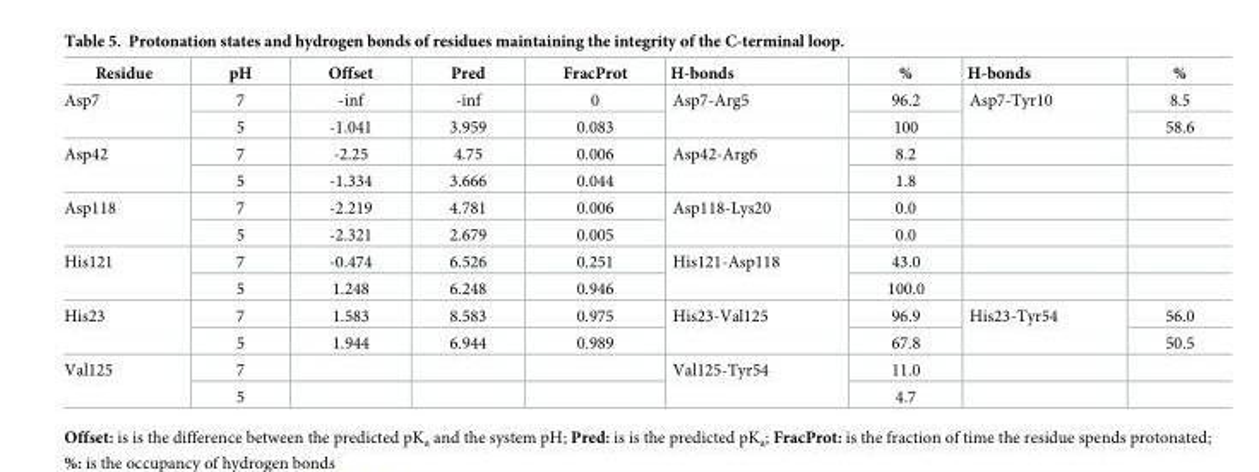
<table><thead><tr><td>Residue</td><td>pH</td><td>Offset</td><td>Pred</td><td>FracProt</td><td>H-bonds</td><td>%</td><td>H-bonds</td><td>%</td></tr></thead><tbody><tr><td rowspan="2">Asp7</td><td>7</td><td>-inf</td><td>-inf</td><td>0</td><td rowspan="2">Asp7-Arg5</td><td>96.2</td><td rowspan="2">Asp7-Tyr10</td><td>8.5</td></tr><tr><td>5</td><td>-1.041</td><td>3.959</td><td>0.083</td><td>100</td><td>58.6</td></tr><tr><td rowspan="2">Asp42</td><td>7</td><td>-2.25</td><td>4.75</td><td>0.006</td><td rowspan="2">Asp42-Arg6</td><td>8.2</td><td></td><td></td></tr><tr><td>5</td><td>-1.334</td><td>3.666</td><td>0.044</td><td>1.8</td><td></td><td></td></tr><tr><td rowspan="2">Asp118</td><td>7</td><td>-2.219</td><td>4.781</td><td>0.006</td><td rowspan="2">Asp118-Lys20</td><td>0.0</td><td></td><td></td></tr><tr><td>5</td><td>-2.321</td><td>2.679</td><td>0.005</td><td>0.0</td><td></td><td></td></tr><tr><td rowspan="2">His121</td><td>7</td><td>-0.474</td><td>6.526</td><td>0.251</td><td rowspan="2">His121-Asp118</td><td>43.0</td><td></td><td></td></tr><tr><td>5</td><td>1.248</td><td>6.248</td><td>0.946</td><td>100.0</td><td></td><td></td></tr><tr><td rowspan="2">His23</td><td>7</td><td>1.583</td><td>8.583</td><td>0.975</td><td rowspan="2">His23-Val125</td><td>96.9</td><td rowspan="2">His23-Tyr54</td><td>56.0</td></tr><tr><td>5</td><td>1.944</td><td>6.944</td><td>0.989</td><td>67.8</td><td>50.5</td></tr><tr><td rowspan="2">Val125</td><td>7</td><td></td><td></td><td></td><td rowspan="2">Val125-Tyr54</td><td>11.0</td><td></td><td></td></tr><tr><td>5</td><td></td><td></td><td></td><td>4.7</td><td></td><td></td></tr></tbody></table>